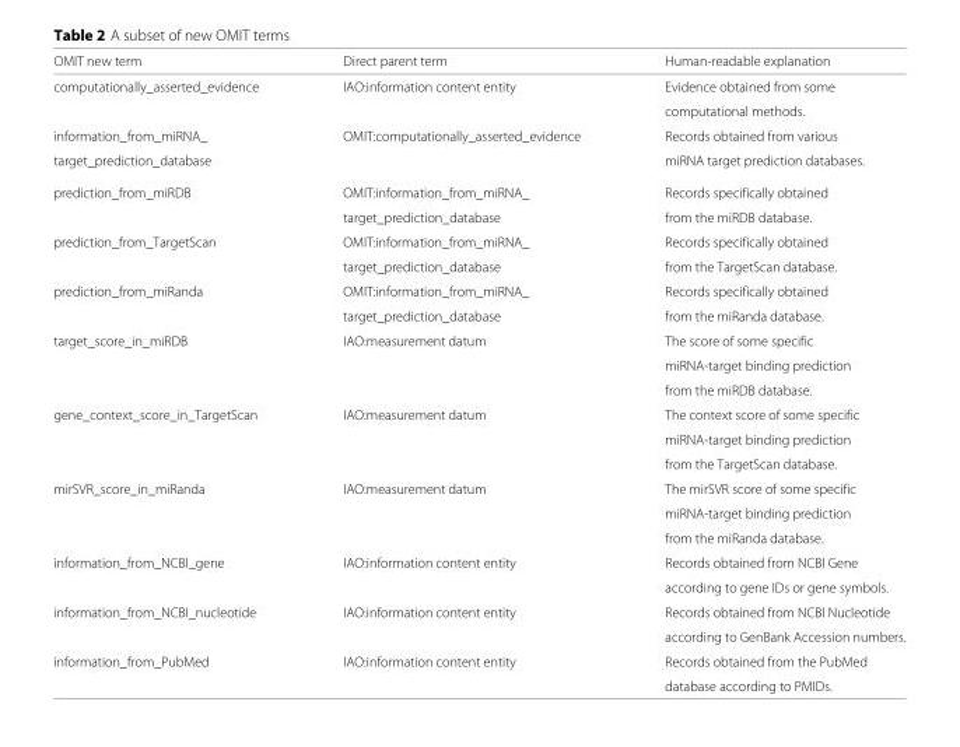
<table><thead><tr><td>OMIT new term</td><td>Direct parent term</td><td>Human-readable explanation</td></tr></thead><tbody><tr><td rowspan="2">computationally_asserted_evidence</td><td>IAO:information content entity</td><td>Evidence obtained from some</td></tr><tr><td></td><td>computational methods.</td></tr><tr><td>information_from_miRNA_</td><td>OMIT:computationally_asserted_evidence</td><td>Records obtained from various</td></tr><tr><td>target_prediction_database</td><td></td><td>miRNA target prediction databases.</td></tr><tr><td rowspan="2">prediction_from_miRDB</td><td>OMIT:information_from_miRNA_</td><td>Records specifically obtained</td></tr><tr><td>target_prediction_database</td><td>from the miRDB database.</td></tr><tr><td rowspan="2">prediction_from_TargetScan</td><td>OMIT:information_from_miRNA_</td><td>Records specifically obtained</td></tr><tr><td>target_prediction_database</td><td>from the TargetScan database.</td></tr><tr><td rowspan="2">prediction_from_miRanda</td><td>OMIT:information_from_miRNA_</td><td>Records specifically obtained</td></tr><tr><td>target_prediction_database</td><td>from the miRanda database.</td></tr><tr><td rowspan="3">target_score_in_miRDB</td><td>IAO:measurement datum</td><td>The score of some specific</td></tr><tr><td></td><td>miRNA-target binding prediction</td></tr><tr><td></td><td>from the miRDB database.</td></tr><tr><td rowspan="3">gene_context_score_in_TargetScan</td><td>IAO:measurement datum</td><td>The context score of some specific</td></tr><tr><td></td><td>miRNA-target binding prediction</td></tr><tr><td></td><td>from the TargetScan database.</td></tr><tr><td rowspan="3">mirSVR_score_in_miRanda</td><td>IAO:measurement datum</td><td>The mirSVR score of some specific</td></tr><tr><td></td><td>miRNA-target binding prediction</td></tr><tr><td></td><td>from the miRanda database.</td></tr><tr><td rowspan="2">information_from_NCBI_gene</td><td>IAO:information content entity</td><td>Records obtained from NCBI Gene</td></tr><tr><td></td><td>according to gene IDs or gene symbols.</td></tr><tr><td rowspan="2">information_from_NCBI_nucleotide</td><td>IAO:information content entity</td><td>Records obtained from NCBI Nucleotide</td></tr><tr><td></td><td>according to GenBank Accession numbers.</td></tr><tr><td rowspan="2">information_from_PubMed</td><td>IAO:information content entity</td><td>Records obtained from the PubMed</td></tr><tr><td></td><td>database according to PMIDs.</td></tr></tbody></table>